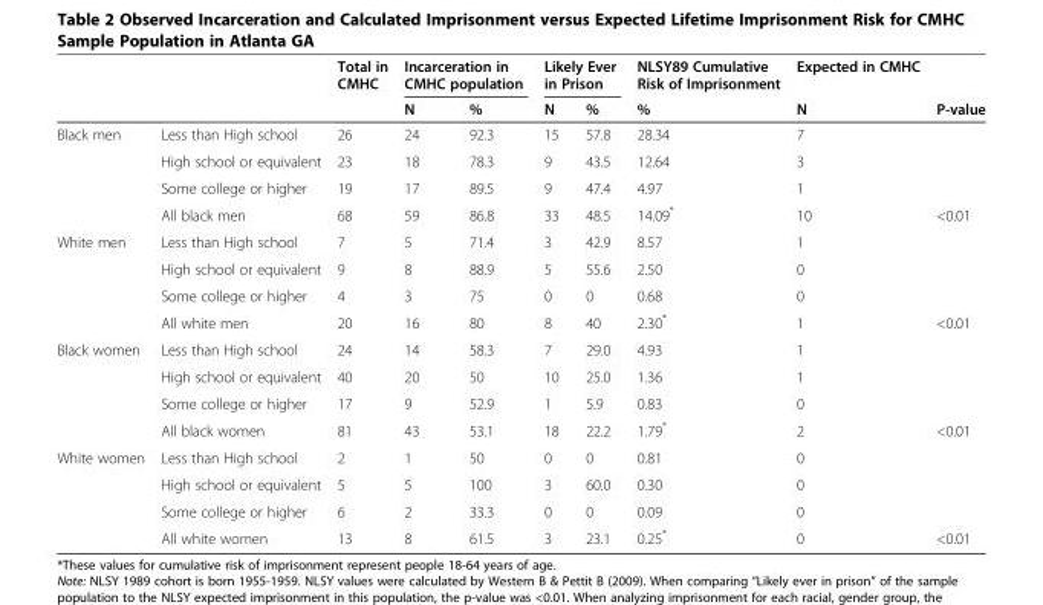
<table><thead><tr><td rowspan="2"></td><td rowspan="2"></td><td rowspan="2">Total in CMHC</td><td colspan="2">Incarceration in CMHC population</td><td colspan="2">Likely Ever in Prison</td><td rowspan="2">NLSY89 Cumulative Risk of Imprisonment %</td><td rowspan="2">Expected in CMHC N</td><td rowspan="2">P-value</td></tr><tr><td>N</td><td>%</td><td>N</td><td>%</td></tr></thead><tbody><tr><td rowspan="4">Black men</td><td>Less than High school</td><td>26</td><td>24</td><td>92.3</td><td>15</td><td>57.8</td><td>28.34</td><td>7</td><td></td></tr><tr><td>High school or equivalent</td><td>23</td><td>18</td><td>78.3</td><td>9</td><td>43.5</td><td>12.64</td><td>3</td><td></td></tr><tr><td>Some college or higher</td><td>19</td><td>17</td><td>89.5</td><td>9</td><td>47.4</td><td>4.97</td><td>1</td><td></td></tr><tr><td>All black men</td><td>68</td><td>59</td><td>86.8</td><td>33</td><td>48.5</td><td>14.09*</td><td>10</td><td>&lt;0.01</td></tr><tr><td rowspan="4">White men</td><td>Less than High school</td><td>7</td><td>5</td><td>71.4</td><td>3</td><td>42.9</td><td>8.57</td><td>1</td><td></td></tr><tr><td>High school or equivalent</td><td>9</td><td>8</td><td>88.9</td><td>5</td><td>55.6</td><td>2.50</td><td>0</td><td></td></tr><tr><td>Some college or higher</td><td>4</td><td>3</td><td>75</td><td>0</td><td>0</td><td>0.68</td><td>0</td><td></td></tr><tr><td>All white men</td><td>20</td><td>16</td><td>80</td><td>8</td><td>40</td><td>2.30*</td><td>1</td><td>&lt;0.01</td></tr><tr><td rowspan="4">Black women</td><td>Less than High school</td><td>24</td><td>14</td><td>58.3</td><td>7</td><td>29.0</td><td>4.93</td><td>1</td><td></td></tr><tr><td>High school or equivalent</td><td>40</td><td>20</td><td>50</td><td>10</td><td>25.0</td><td>1.36</td><td>1</td><td></td></tr><tr><td>Some college or higher</td><td>17</td><td>9</td><td>52.9</td><td>1</td><td>5.9</td><td>0.83</td><td>0</td><td></td></tr><tr><td>All black women</td><td>81</td><td>43</td><td>53.1</td><td>18</td><td>22.2</td><td>1.79*</td><td>2</td><td>&lt;0.01</td></tr><tr><td rowspan="4">White women</td><td>Less than High school</td><td>2</td><td>1</td><td>50</td><td>0</td><td>0</td><td>0.81</td><td>0</td><td></td></tr><tr><td>High school or equivalent</td><td>5</td><td>5</td><td>100</td><td>3</td><td>60.0</td><td>0.30</td><td>0</td><td></td></tr><tr><td>Some college or higher</td><td>6</td><td>2</td><td>33.3</td><td>0</td><td>0</td><td>0.09</td><td>0</td><td></td></tr><tr><td>All white women</td><td>13</td><td>8</td><td>61.5</td><td>3</td><td>23.1</td><td>0.25*</td><td>0</td><td>&lt;0.01</td></tr></tbody></table>